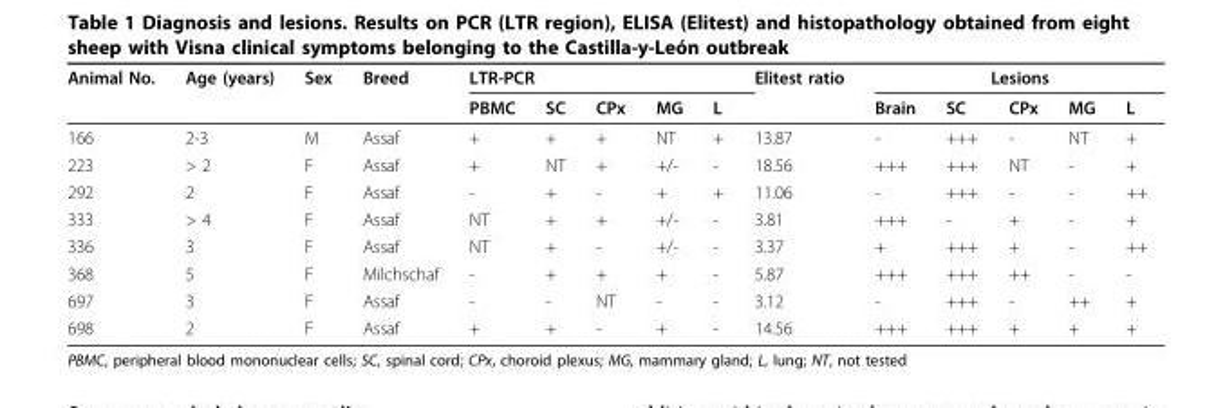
<table><thead><tr><td rowspan="2">Animal No.</td><td rowspan="2">Age (years)</td><td rowspan="2">Sex</td><td rowspan="2">Breed</td><td colspan="5">LTR-PCR</td><td rowspan="2">Elitest ratio</td><td colspan="5">Lesions</td></tr><tr><td>PBMC</td><td>SC</td><td>CPx</td><td>MG</td><td>L</td><td>Brain</td><td>SC</td><td>CPx</td><td>MG</td><td>L</td></tr></thead><tbody><tr><td>166</td><td>2-3</td><td>M</td><td>Assaf</td><td>+</td><td>+</td><td>+</td><td>NT</td><td>+</td><td>13.87</td><td>-</td><td>+++</td><td>-</td><td>NT</td><td>+</td></tr><tr><td>223</td><td>&gt; 2</td><td>F</td><td>Assaf</td><td>+</td><td>NT</td><td>+</td><td>+/-</td><td>-</td><td>18.56</td><td>+++</td><td>+++</td><td>NT</td><td>-</td><td>+</td></tr><tr><td>292</td><td>2</td><td>F</td><td>Assaf</td><td>-</td><td>+</td><td>-</td><td>+</td><td>+</td><td>11.06</td><td>-</td><td>+++</td><td>-</td><td>-</td><td>++</td></tr><tr><td>333</td><td>&gt; 4</td><td>F</td><td>Assaf</td><td>NT</td><td>+</td><td>+</td><td>+/-</td><td>-</td><td>3.81</td><td>+++</td><td>-</td><td>+</td><td>-</td><td>+</td></tr><tr><td>336</td><td>3</td><td>F</td><td>Assaf</td><td>NT</td><td>+</td><td>-</td><td>+/-</td><td>-</td><td>3.37</td><td>+</td><td>+++</td><td>+</td><td>-</td><td>++</td></tr><tr><td>368</td><td>5</td><td>F</td><td>Milchschaf</td><td>-</td><td>+</td><td>+</td><td>+</td><td>-</td><td>5.87</td><td>+++</td><td>+++</td><td>++</td><td>-</td><td>-</td></tr><tr><td>697</td><td>3</td><td>F</td><td>Assaf</td><td>-</td><td>-</td><td>NT</td><td>-</td><td>-</td><td>3.12</td><td>-</td><td>+++</td><td>-</td><td>++</td><td>+</td></tr><tr><td>698</td><td>2</td><td>F</td><td>Assaf</td><td>+</td><td>+</td><td>-</td><td>+</td><td>-</td><td>14.56</td><td>+++</td><td>+++</td><td>+</td><td>+</td><td>+</td></tr></tbody></table>